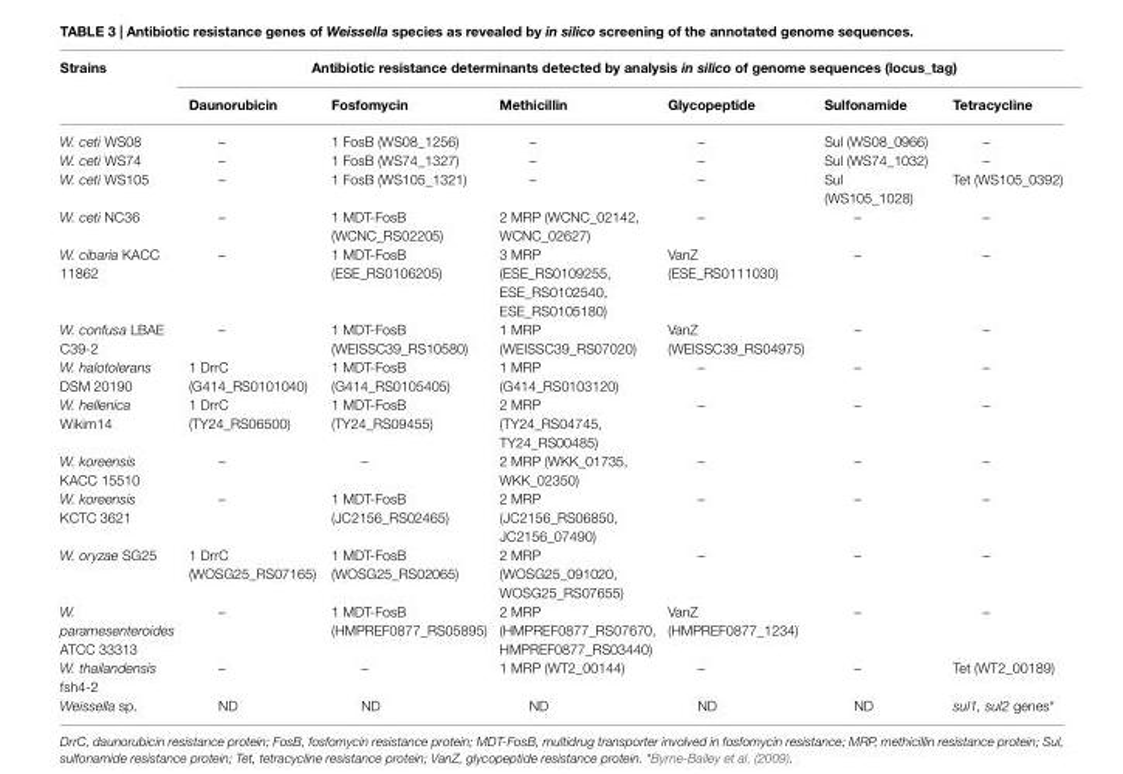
<table><thead><tr><td rowspan="2">Strains</td><td colspan="6">Antibiotic resistance determinants detected by analysis in silico of genome sequences (locus_tag)</td></tr><tr><td>Daunorubicin</td><td>Fosfomycin</td><td>Methicillin</td><td>Glycopeptide</td><td>Sulfonamide</td><td>Tetracycline</td></tr></thead><tbody><tr><td>W. ceti WS08</td><td>–</td><td>1 FosB (WS08_1256)</td><td>–</td><td>–</td><td>Sul (WS08_0966)</td><td>–</td></tr><tr><td>W. ceti WS74</td><td>–</td><td>1 FosB (WS74_1327)</td><td>–</td><td>–</td><td>Sul (WS74_1032)</td><td>–</td></tr><tr><td>W. ceti WS105</td><td>–</td><td>1 FosB (WS105_1321)</td><td>–</td><td>–</td><td>Sul (WS105_1028)</td><td>Tet (WS105_0392)</td></tr><tr><td>W. ceti NC36</td><td>–</td><td>1 MDT-FosB (WCNC_RS02205)</td><td>2 MRP (WCNC_02142, WCNC_02627)</td><td>–</td><td>–</td><td>–</td></tr><tr><td>W. cibaria KACC 11862</td><td>–</td><td>1 MDT-FosB (ESE_RS0106205)</td><td>3 MRP (ESE_RS0109255, ESE_RS0102540, ESE_RS0105180)</td><td>VanZ (ESE_RS0111030)</td><td>–</td><td>–</td></tr><tr><td>W. confusa LBAE C39-2</td><td>–</td><td>1 MDT-FosB (WEISSC39_RS10580)</td><td>1 MRP (WEISSC39_RS07020)</td><td>VanZ (WEISSC39_RS04975)</td><td>–</td><td>–</td></tr><tr><td>W. halotolerans DSM 20190</td><td>1 DrrC (G414_RS0101040)</td><td>1 MDT-FosB (G414_RS0105405)</td><td>1 MRP (G414_RS0103120)</td><td>–</td><td>–</td><td>–</td></tr><tr><td>W. hellenica Wikim14</td><td>1 DrrC (TY24_RS06500)</td><td>1 MDT-FosB (TY24_RS09455)</td><td>2 MRP (TY24_RS04745, TY24_RS00485)</td><td>–</td><td>–</td><td>–</td></tr><tr><td>W. koreensis KACC 15510</td><td>–</td><td>–</td><td>2 MRP (WKK_01735, WKK_02350)</td><td>–</td><td>–</td><td>–</td></tr><tr><td>W. koreensis KCTC 3621</td><td>–</td><td>1 MDT-FosB (JC2156_RS02465)</td><td>2 MRP (JC2156_RS06850, JC2156_07490)</td><td>–</td><td>–</td><td>–</td></tr><tr><td>W. oryzae SG25</td><td>1 DrrC (WOSG25_RS07165)</td><td>1 MDT-FosB (WOSG25_RS02065)</td><td>2 MRP (WOSG25_091020, WOSG25_RS07655)</td><td>–</td><td>–</td><td>–</td></tr><tr><td>W. paramesenteroides ATCC 33313</td><td>–</td><td>1 MDT-FosB (HMPREF0877_RS05895)</td><td>2 MRP (HMPREF0877_RS07670, HMPREF0877_RS03440)</td><td>VanZ (HMPREF0877_1234)</td><td>–</td><td>–</td></tr><tr><td>W. thailandensis fsh4-2</td><td>–</td><td>–</td><td>1 MRP (WT2_00144)</td><td>–</td><td>–</td><td>Tet (WT2_00189)</td></tr><tr><td>Weissella sp.</td><td>ND</td><td>ND</td><td>ND</td><td>ND</td><td>ND</td><td>sul1, sul2 genes*</td></tr></tbody></table>